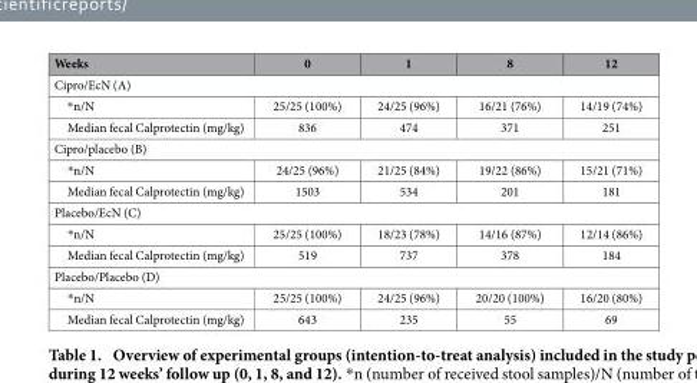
<table><thead><tr><td>Weeks</td><td>0</td><td>1</td><td>8</td><td>12</td></tr></thead><tbody><tr><td colspan="5">Cipro/EcN (A)</td></tr><tr><td>*n/N</td><td>25/25 (100%)</td><td>24/25 (96%)</td><td>16/21 (76%)</td><td>14/19 (74%)</td></tr><tr><td>Median fecal Calprotectin (mg/kg)</td><td>836</td><td>474</td><td>371</td><td>251</td></tr><tr><td colspan="5">Cipro/placebo (B)</td></tr><tr><td>*n/N</td><td>24/25 (96%)</td><td>21/25 (84%)</td><td>19/22 (86%)</td><td>15/21 (71%)</td></tr><tr><td>Median fecal Calprotectin (mg/kg)</td><td>1503</td><td>534</td><td>201</td><td>181</td></tr><tr><td colspan="5">Placebo/EcN (C)</td></tr><tr><td>*n/N</td><td>25/25 (100%)</td><td>18/23 (78%)</td><td>14/16 (87%)</td><td>12/14 (86%)</td></tr><tr><td>Median fecal Calprotectin (mg/kg)</td><td>519</td><td>737</td><td>378</td><td>184</td></tr><tr><td colspan="5">Placebo/Placebo (D)</td></tr><tr><td>*n/N</td><td>25/25 (100%)</td><td>24/25 (96%)</td><td>20/20 (100%)</td><td>16/20 (80%)</td></tr><tr><td>Median fecal Calprotectin (mg/kg)</td><td>643</td><td>235</td><td>55</td><td>69</td></tr></tbody></table>